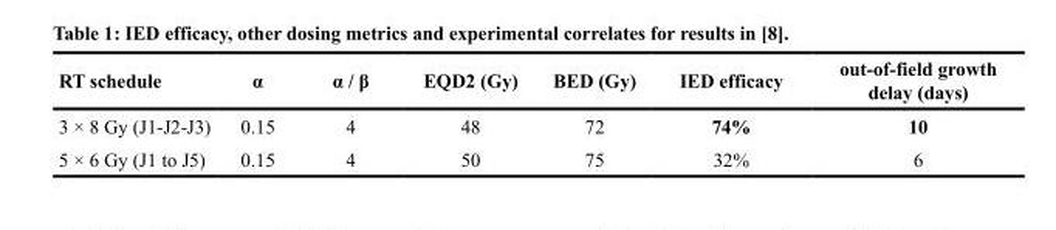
<table><thead><tr><td>RT schedule</td><td>α</td><td>α / β</td><td>EQD2 (Gy)</td><td>BED (Gy)</td><td>IED efficacy</td><td>out-of-field growth delay (days)</td></tr></thead><tbody><tr><td>3 × 8 Gy (J1-J2-J3)</td><td>0.15</td><td>4</td><td>48</td><td>72</td><td>74%</td><td>10</td></tr><tr><td>5 × 6 Gy (J1 to J5)</td><td>0.15</td><td>4</td><td>50</td><td>75</td><td>32%</td><td>6</td></tr></tbody></table>